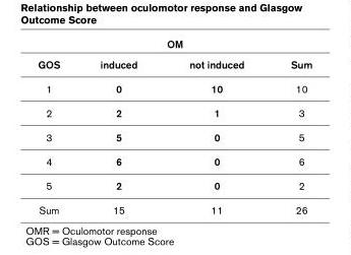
<table><thead><tr><td colspan="4">OM</td></tr><tr><td>GOS</td><td>induced</td><td>not induced</td><td>Sum</td></tr></thead><tbody><tr><td>1</td><td>0</td><td>10</td><td>10</td></tr><tr><td>2</td><td>2</td><td>1</td><td>3</td></tr><tr><td>3</td><td>5</td><td>0</td><td>5</td></tr><tr><td>4</td><td>6</td><td>0</td><td>6</td></tr><tr><td>5</td><td>2</td><td>0</td><td>2</td></tr><tr><td>Sum</td><td>15</td><td>11</td><td>26</td></tr></tbody></table>